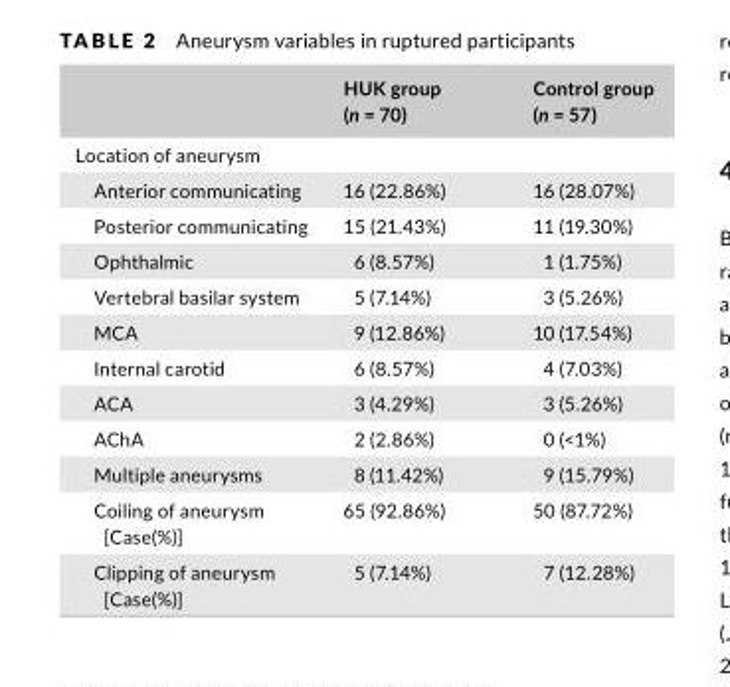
<table><thead><tr><td></td><td>HUK group (n = 70)</td><td>Control group (n = 57)</td></tr></thead><tbody><tr><td colspan="3">Location of aneurysm</td></tr><tr><td>Anterior communicating</td><td>16 (22.86%)</td><td>16 (28.07%)</td></tr><tr><td>Posterior communicating</td><td>15 (21.43%)</td><td>11 (19.30%)</td></tr><tr><td>Ophthalmic</td><td>6 (8.57%)</td><td>1 (1.75%)</td></tr><tr><td>Vertebral basilar system</td><td>5 (7.14%)</td><td>3 (5.26%)</td></tr><tr><td>MCA</td><td>9 (12.86%)</td><td>10 (17.54%)</td></tr><tr><td>Internal carotid</td><td>6 (8.57%)</td><td>4 (7.03%)</td></tr><tr><td>ACA</td><td>3 (4.29%)</td><td>3 (5.26%)</td></tr><tr><td>AChA</td><td>2 (2.86%)</td><td>0 (&lt;1%)</td></tr><tr><td>Multiple aneurysms</td><td>8 (11.42%)</td><td>9 (15.79%)</td></tr><tr><td>Coiling of aneurysm [Case(%)]</td><td>65 (92.86%)</td><td>50 (87.72%)</td></tr><tr><td>Clipping of aneurysm [Case(%)]</td><td>5 (7.14%)</td><td>7 (12.28%)</td></tr></tbody></table>